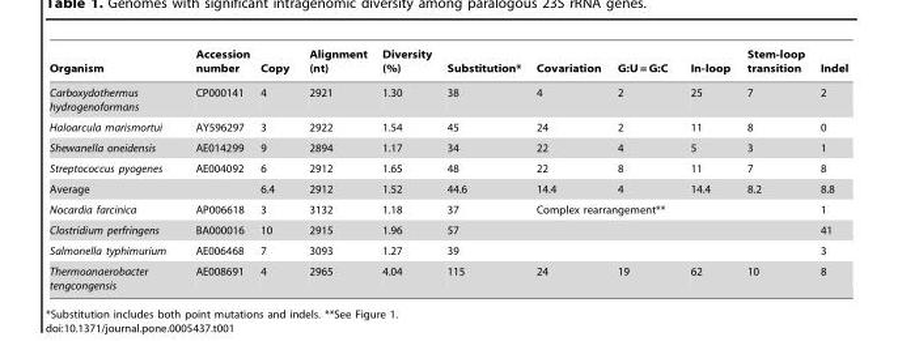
<table><thead><tr><td>Organism</td><td>Accession number</td><td>Copy</td><td>Alignment (nt)</td><td>Diversity (%)</td><td>Substitution*</td><td>Covariation</td><td>G:U = G:C</td><td>In-loop</td><td>Stem-loop transition</td><td>Indel</td></tr></thead><tbody><tr><td>Carboxydothermus hydrogenoformans</td><td>CP000141</td><td>4</td><td>2921</td><td>1.30</td><td>38</td><td>4</td><td>2</td><td>25</td><td>7</td><td>2</td></tr><tr><td>Haloarcula marismortui</td><td>AY596297</td><td>3</td><td>2922</td><td>1.54</td><td>45</td><td>24</td><td>2</td><td>11</td><td>8</td><td>0</td></tr><tr><td>Shewanella oneidensis</td><td>AE014299</td><td>9</td><td>2894</td><td>1.17</td><td>34</td><td>22</td><td>4</td><td>5</td><td>3</td><td>1</td></tr><tr><td>Streptococcus pyogenes</td><td>AE004092</td><td>6</td><td>2912</td><td>1.65</td><td>48</td><td>22</td><td>8</td><td>11</td><td>7</td><td>8</td></tr><tr><td colspan="2">Average</td><td>6.4</td><td>2912</td><td>1.52</td><td>44.6</td><td>14.4</td><td>4</td><td>14.4</td><td>8.2</td><td>8.8</td></tr><tr><td>Nocardia farcinica</td><td>AP006618</td><td>3</td><td>3132</td><td>1.18</td><td>37</td><td colspan="4">Complex rearrangement**</td><td>1</td></tr><tr><td>Clostridium perfringens</td><td>BA000016</td><td>10</td><td>2915</td><td>1.96</td><td>57</td><td colspan="4"></td><td>41</td></tr><tr><td>Salmonella typhimurium</td><td>AE006468</td><td>7</td><td>3093</td><td>1.27</td><td>39</td><td colspan="4"></td><td>3</td></tr><tr><td>Thermoanaerobacter tengcongensis</td><td>AE008691</td><td>4</td><td>2965</td><td>4.04</td><td>115</td><td>24</td><td>19</td><td>62</td><td>10</td><td>8</td></tr></tbody></table>